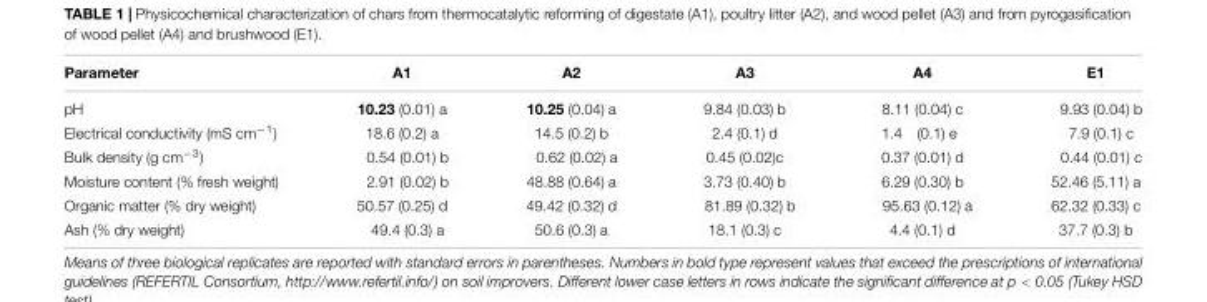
<table><thead><tr><td>Parameter</td><td>A1</td><td>A2</td><td>A3</td><td>A4</td><td>E1</td></tr></thead><tbody><tr><td>pH</td><td>10.23 (0.01) a</td><td>10.25 (0.04) a</td><td>9.84 (0.03) b</td><td>8.11 (0.04) c</td><td>9.93 (0.04) b</td></tr><tr><td>Electrical conductivity (mS cm<sup>−1</sup>)</td><td>18.6 (0.2) a</td><td>14.5 (0.2) b</td><td>2.4 (0.1) d</td><td>1.4 (0.1) e</td><td>7.9 (0.1) c</td></tr><tr><td>Bulk density (g cm<sup>−3</sup>)</td><td>0.54 (0.01) b</td><td>0.62 (0.02) a</td><td>0.45 (0.02)c</td><td>0.37 (0.01) d</td><td>0.44 (0.01) c</td></tr><tr><td>Moisture content (% fresh weight)</td><td>2.91 (0.02) b</td><td>48.88 (0.64) a</td><td>3.73 (0.40) b</td><td>6.29 (0.30) b</td><td>52.46 (5.11) a</td></tr><tr><td>Organic matter (% dry weight)</td><td>50.57 (0.25) d</td><td>49.42 (0.32) d</td><td>81.89 (0.32) b</td><td>95.63 (0.12) a</td><td>62.32 (0.33) c</td></tr><tr><td>Ash (% dry weight)</td><td>49.4 (0.3) a</td><td>50.6 (0.3) a</td><td>18.1 (0.3) c</td><td>4.4 (0.1) d</td><td>37.7 (0.3) b</td></tr></tbody></table>